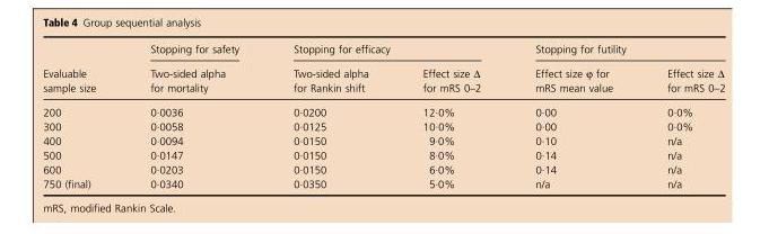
<table><thead><tr><td rowspan="2">Evaluable sample size</td><td rowspan="2">Stopping for safety Two-sided alpha for mortality</td><td colspan="2">Stopping for efficacy</td><td colspan="2">Stopping for futility</td></tr><tr><td>Two-sided alpha for Rankin shift</td><td>Effect size Δ for mRS 0–2</td><td>Effect size φ for mRS mean value</td><td>Effect size Δ for mRS 0–2</td></tr></thead><tbody><tr><td>200</td><td>0·0036</td><td>0·0200</td><td>12·0%</td><td>0·00</td><td>0·0%</td></tr><tr><td>300</td><td>0·0058</td><td>0·0125</td><td>10·0%</td><td>0·00</td><td>0·0%</td></tr><tr><td>400</td><td>0·0094</td><td>0·0150</td><td>9·0%</td><td>0·10</td><td>n/a</td></tr><tr><td>500</td><td>0·0147</td><td>0·0150</td><td>8·0%</td><td>0·14</td><td>n/a</td></tr><tr><td>600</td><td>0·0203</td><td>0·0150</td><td>6·0%</td><td>0·14</td><td>n/a</td></tr><tr><td>750 (final)</td><td>0·0340</td><td>0·0350</td><td>5·0%</td><td>n/a</td><td>n/a</td></tr></tbody></table>